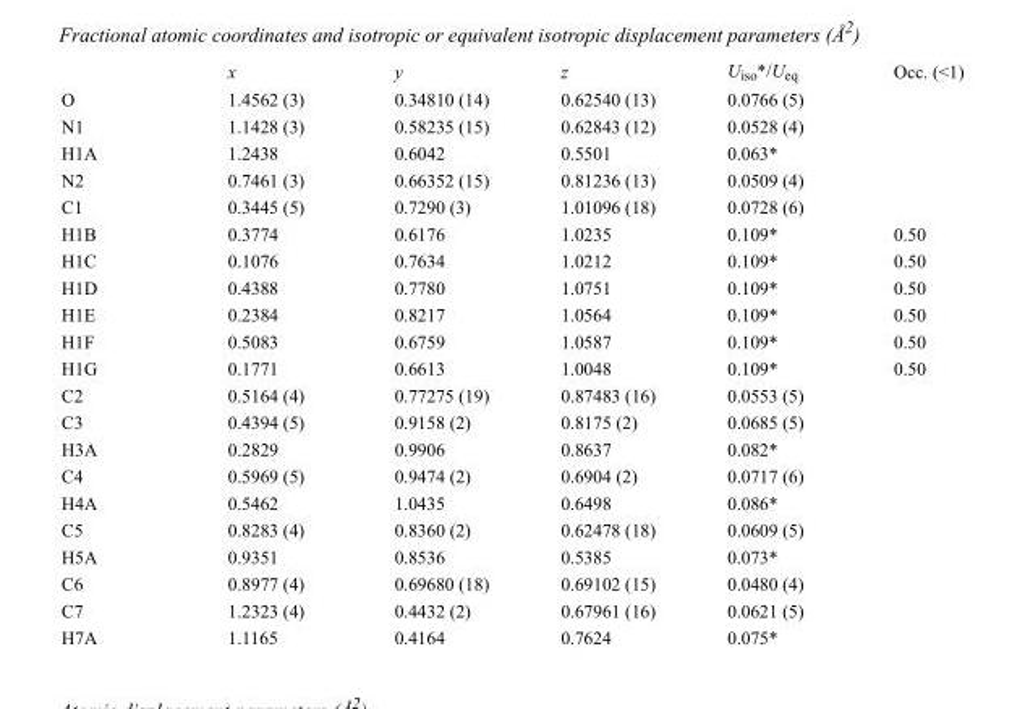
<table><thead><tr><td></td><td>x</td><td>y</td><td>z</td><td>U<sub>iso</sub>*/U<sub>eq</sub></td><td>Occ. (&lt;1)</td></tr></thead><tbody><tr><td>O</td><td>1.4562 (3)</td><td>0.34810 (14)</td><td>0.62540 (13)</td><td>0.0766 (5)</td><td></td></tr><tr><td>N1</td><td>1.1428 (3)</td><td>0.58235 (15)</td><td>0.62843 (12)</td><td>0.0528 (4)</td><td></td></tr><tr><td>H1A</td><td>1.2438</td><td>0.6042</td><td>0.5501</td><td>0.063*</td><td></td></tr><tr><td>N2</td><td>0.7461 (3)</td><td>0.66352 (15)</td><td>0.81236 (13)</td><td>0.0509 (4)</td><td></td></tr><tr><td>C1</td><td>0.3445 (5)</td><td>0.7290 (3)</td><td>1.01096 (18)</td><td>0.0728 (6)</td><td></td></tr><tr><td>H1B</td><td>0.3774</td><td>0.6176</td><td>1.0235</td><td>0.109*</td><td>0.50</td></tr><tr><td>H1C</td><td>0.1076</td><td>0.7634</td><td>1.0212</td><td>0.109*</td><td>0.50</td></tr><tr><td>H1D</td><td>0.4388</td><td>0.7780</td><td>1.0751</td><td>0.109*</td><td>0.50</td></tr><tr><td>H1E</td><td>0.2384</td><td>0.8217</td><td>1.0564</td><td>0.109*</td><td>0.50</td></tr><tr><td>H1F</td><td>0.5083</td><td>0.6759</td><td>1.0587</td><td>0.109*</td><td>0.50</td></tr><tr><td>H1G</td><td>0.1771</td><td>0.6613</td><td>1.0048</td><td>0.109*</td><td>0.50</td></tr><tr><td>C2</td><td>0.5164 (4)</td><td>0.77275 (19)</td><td>0.87483 (16)</td><td>0.0553 (5)</td><td></td></tr><tr><td>C3</td><td>0.4394 (5)</td><td>0.9158 (2)</td><td>0.8175 (2)</td><td>0.0685 (5)</td><td></td></tr><tr><td>H3A</td><td>0.2829</td><td>0.9906</td><td>0.8637</td><td>0.082*</td><td></td></tr><tr><td>C4</td><td>0.5969 (5)</td><td>0.9474 (2)</td><td>0.6904 (2)</td><td>0.0717 (6)</td><td></td></tr><tr><td>H4A</td><td>0.5462</td><td>1.0435</td><td>0.6498</td><td>0.086*</td><td></td></tr><tr><td>C5</td><td>0.8283 (4)</td><td>0.8360 (2)</td><td>0.62478 (18)</td><td>0.0609 (5)</td><td></td></tr><tr><td>H5A</td><td>0.9351</td><td>0.8536</td><td>0.5385</td><td>0.073*</td><td></td></tr><tr><td>C6</td><td>0.8977 (4)</td><td>0.69680 (18)</td><td>0.69102 (15)</td><td>0.0480 (4)</td><td></td></tr><tr><td>C7</td><td>1.2323 (4)</td><td>0.4432 (2)</td><td>0.67961 (16)</td><td>0.0621 (5)</td><td></td></tr><tr><td>H7A</td><td>1.1165</td><td>0.4164</td><td>0.7624</td><td>0.075*</td><td></td></tr></tbody></table>